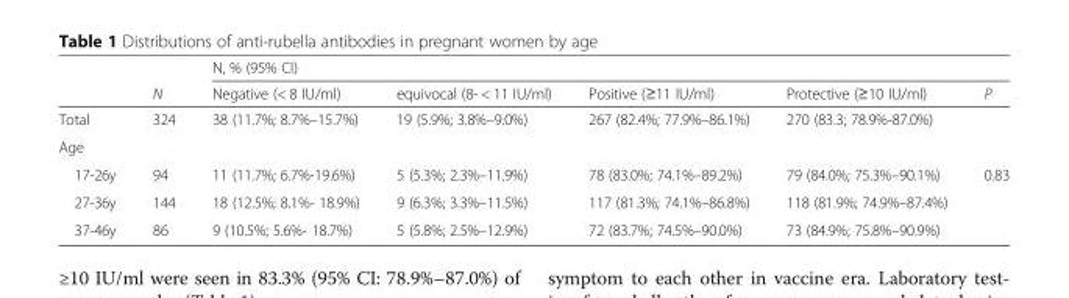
<table><thead><tr><td rowspan="2"></td><td rowspan="2">N</td><td colspan="5">N, % (95% CI)</td></tr><tr><td>Negative (&lt; 8 IU/ml)</td><td>equivocal (8- &lt; 11 IU/ml)</td><td>Positive (≥11 IU/ml)</td><td>Protective (≥10 IU/ml)</td><td>P</td></tr></thead><tbody><tr><td>Total</td><td>324</td><td>38 (11.7%; 8.7%–15.7%)</td><td>19 (5.9%; 3.8%–9.0%)</td><td>267 (82.4%; 77.9%–86.1%)</td><td>270 (83.3; 78.9%-87.0%)</td><td></td></tr><tr><td colspan="7">Age</td></tr><tr><td>17-26y</td><td>94</td><td>11 (11.7%; 6.7%-19.6%)</td><td>5 (5.3%; 2.3%–11.9%)</td><td>78 (83.0%; 74.1%–89.2%)</td><td>79 (84.0%; 75.3%–90.1%)</td><td>0.83</td></tr><tr><td>27-36y</td><td>144</td><td>18 (12.5%; 8.1%- 18.9%)</td><td>9 (6.3%; 3.3%–11.5%)</td><td>117 (81.3%; 74.1%–86.8%)</td><td>118 (81.9%; 74.9%–87.4%)</td><td></td></tr><tr><td>37-46y</td><td>86</td><td>9 (10.5%; 5.6%- 18.7%)</td><td>5 (5.8%; 2.5%–12.9%)</td><td>72 (83.7%; 74.5%–90.0%)</td><td>73 (84.9%; 75.8%–90.9%)</td><td></td></tr></tbody></table>